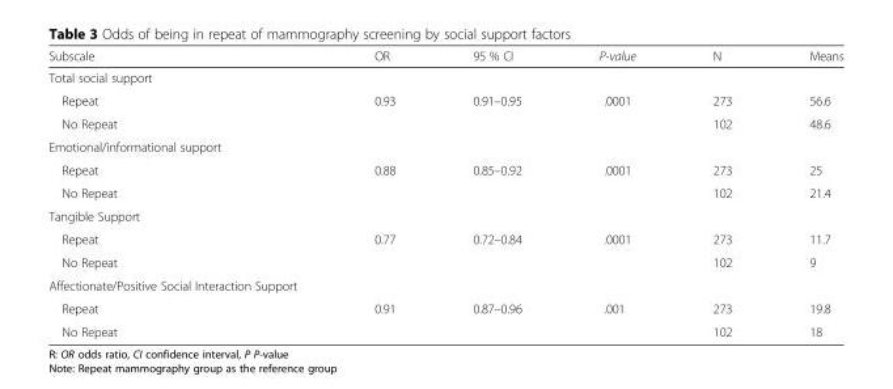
<table><thead><tr><td>Subscale</td><td>OR</td><td>95 % CI</td><td>P-value</td><td>N</td><td>Means</td></tr></thead><tbody><tr><td colspan="6">Total social support</td></tr><tr><td>Repeat</td><td>0.93</td><td>0.91–0.95</td><td>.0001</td><td>273</td><td>56.6</td></tr><tr><td>No Repeat</td><td></td><td></td><td></td><td>102</td><td>48.6</td></tr><tr><td colspan="6">Emotional/informational support</td></tr><tr><td>Repeat</td><td>0.88</td><td>0.85–0.92</td><td>.0001</td><td>273</td><td>25</td></tr><tr><td>No Repeat</td><td></td><td></td><td></td><td>102</td><td>21.4</td></tr><tr><td colspan="6">Tangible Support</td></tr><tr><td>Repeat</td><td>0.77</td><td>0.72–0.84</td><td>.0001</td><td>273</td><td>11.7</td></tr><tr><td>No Repeat</td><td></td><td></td><td></td><td>102</td><td>9</td></tr><tr><td colspan="6">Affectionate/Positive Social Interaction Support</td></tr><tr><td>Repeat</td><td>0.91</td><td>0.87–0.96</td><td>.001</td><td>273</td><td>19.8</td></tr><tr><td>No Repeat</td><td></td><td></td><td></td><td>102</td><td>18</td></tr></tbody></table>